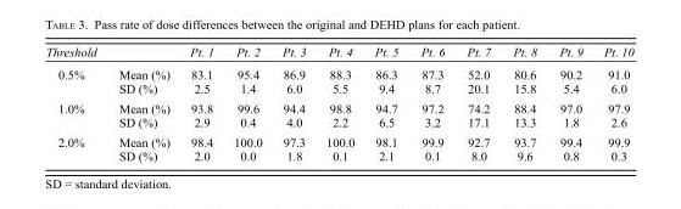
<table><thead><tr><td>Threshold</td><td></td><td>Pt. 1</td><td>Pt. 2</td><td>Pt. 3</td><td>Pt. 4</td><td>Pt. 5</td><td>Pt. 6</td><td>Pt. 7</td><td>Pt. 8</td><td>Pt. 9</td><td>Pt. 10</td></tr></thead><tbody><tr><td rowspan="2">0.5%</td><td>Mean (%)</td><td>83.1</td><td>95.4</td><td>86.9</td><td>88.3</td><td>86.3</td><td>87.3</td><td>52.0</td><td>80.6</td><td>90.2</td><td>91.0</td></tr><tr><td>SD (%)</td><td>2.5</td><td>1.4</td><td>6.0</td><td>5.5</td><td>9.4</td><td>8.7</td><td>20.1</td><td>15.8</td><td>5.4</td><td>6.0</td></tr><tr><td rowspan="2">1.0%</td><td>Mean (%)</td><td>93.8</td><td>99.6</td><td>94.4</td><td>98.8</td><td>94.7</td><td>97.2</td><td>74.2</td><td>88.4</td><td>97.0</td><td>97.9</td></tr><tr><td>SD (%)</td><td>2.9</td><td>0.4</td><td>4.0</td><td>2.2</td><td>6.5</td><td>3.2</td><td>17.1</td><td>13.3</td><td>1.8</td><td>2.6</td></tr><tr><td rowspan="2">2.0%</td><td>Mean (%)</td><td>98.4</td><td>100.0</td><td>97.3</td><td>100.0</td><td>98.1</td><td>99.9</td><td>92.7</td><td>93.7</td><td>99.4</td><td>99.9</td></tr><tr><td>SD (%)</td><td>2.0</td><td>0.0</td><td>1.8</td><td>0.1</td><td>2.1</td><td>0.1</td><td>8.0</td><td>9.6</td><td>0.8</td><td>0.3</td></tr></tbody></table>